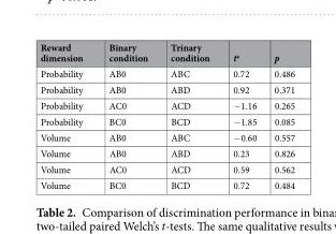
<table><thead><tr><td>Reward dimension</td><td>Binary condition</td><td>Trinary condition</td><td>t<sup>a</sup></td><td>p</td></tr></thead><tbody><tr><td>Probability</td><td>AB0</td><td>ABC</td><td>0.72</td><td>0.486</td></tr><tr><td>Probability</td><td>AB0</td><td>ABD</td><td>0.92</td><td>0.371</td></tr><tr><td>Probability</td><td>AC0</td><td>ACD</td><td>−1.16</td><td>0.265</td></tr><tr><td>Probability</td><td>BC0</td><td>BCD</td><td>−1.85</td><td>0.085</td></tr><tr><td>Volume</td><td>AB0</td><td>ABC</td><td>−0.60</td><td>0.557</td></tr><tr><td>Volume</td><td>AB0</td><td>ABD</td><td>0.23</td><td>0.826</td></tr><tr><td>Volume</td><td>AC0</td><td>ACD</td><td>0.59</td><td>0.562</td></tr><tr><td>Volume</td><td>BC0</td><td>BCD</td><td>0.72</td><td>0.484</td></tr></tbody></table>